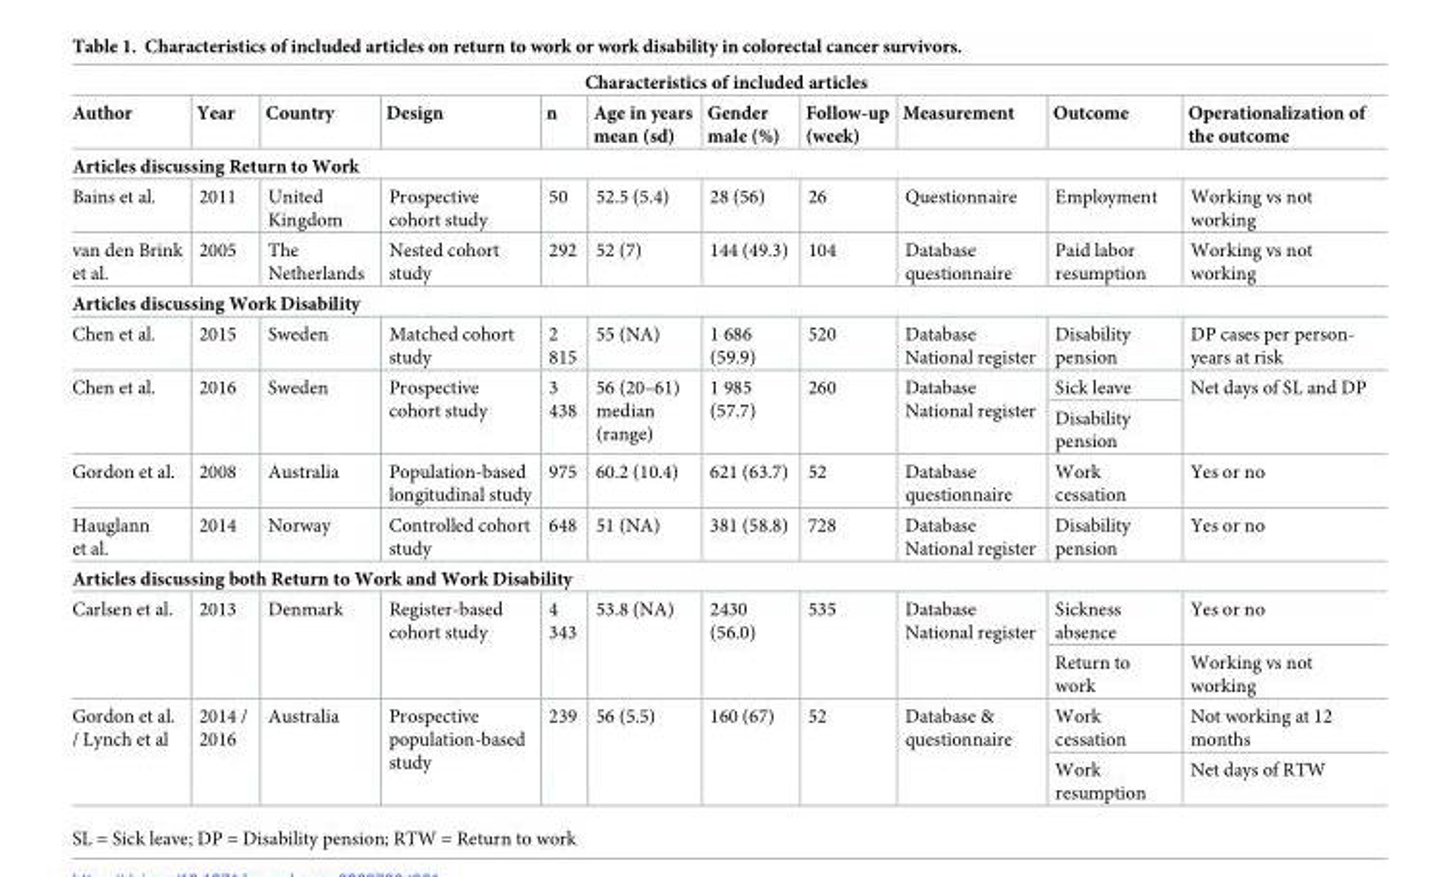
<table><thead><tr><td colspan="11">Characteristics of included articles</td></tr><tr><td>Author</td><td>Year</td><td>Country</td><td>Design</td><td>n</td><td>Age in years mean (sd)</td><td>Gender male (%)</td><td>Follow-up (week)</td><td>Measurement</td><td>Outcome</td><td>Operationalization of the outcome</td></tr></thead><tbody><tr><td colspan="11">Articles discussing Return to Work</td></tr><tr><td>Bains et al.</td><td>2011</td><td>United Kingdom</td><td>Prospective cohort study</td><td>50</td><td>52.5 (5.4)</td><td>28 (56)</td><td>26</td><td>Questionnaire</td><td>Employment</td><td>Working vs not working</td></tr><tr><td>van den Brink et al.</td><td>2005</td><td>The Netherlands</td><td>Nested cohort study</td><td>292</td><td>52 (7)</td><td>144 (49.3)</td><td>104</td><td>Database questionnaire</td><td>Paid labor resumption</td><td>Working vs not working</td></tr><tr><td colspan="11">Articles discussing Work Disability</td></tr><tr><td>Chen et al.</td><td>2015</td><td>Sweden</td><td>Matched cohort study</td><td>2 815</td><td>55 (NA)</td><td>1 686 (59.9)</td><td>520</td><td>Database National register</td><td>Disability pension</td><td>DP cases per person- years at risk</td></tr><tr><td rowspan="2">Chen et al.</td><td rowspan="2">2016</td><td rowspan="2">Sweden</td><td rowspan="2">Prospective cohort study</td><td rowspan="2">3 438</td><td rowspan="2">56 (20–61) median (range)</td><td rowspan="2">1 985 (57.7)</td><td rowspan="2">260</td><td rowspan="2">Database National register</td><td>Sick leave</td><td rowspan="2">Net days of SL and DP</td></tr><tr><td>Disability pension</td></tr><tr><td>Gordon et al.</td><td>2008</td><td>Australia</td><td>Population-based longitudinal study</td><td>975</td><td>60.2 (10.4)</td><td>621 (63.7)</td><td>52</td><td>Database questionnaire</td><td>Work cessation</td><td>Yes or no</td></tr><tr><td>Hauglann et al.</td><td>2014</td><td>Norway</td><td>Controlled cohort study</td><td>648</td><td>51 (NA)</td><td>381 (58.8)</td><td>728</td><td>Database National register</td><td>Disability pension</td><td>Yes or no</td></tr><tr><td colspan="11">Articles discussing both Return to Work and Work Disability</td></tr><tr><td rowspan="2">Carlsen et al.</td><td rowspan="2">2013</td><td rowspan="2">Denmark</td><td rowspan="2">Register-based cohort study</td><td rowspan="2">4 343</td><td rowspan="2">53.8 (NA)</td><td rowspan="2">2430 (56.0)</td><td rowspan="2">535</td><td rowspan="2">Database National register</td><td>Sickness absence</td><td>Yes or no</td></tr><tr><td>Return to work</td><td>Working vs not working</td></tr><tr><td rowspan="2">Gordon et al. / Lynch et al</td><td rowspan="2">2014 / 2016</td><td rowspan="2">Australia</td><td rowspan="2">Prospective population-based study</td><td rowspan="2">239</td><td rowspan="2">56 (5.5)</td><td rowspan="2">160 (67)</td><td rowspan="2">52</td><td rowspan="2">Database &amp; questionnaire</td><td>Work cessation</td><td>Not working at 12 months</td></tr><tr><td>Work resumption</td><td>Net days of RTW</td></tr></tbody></table>